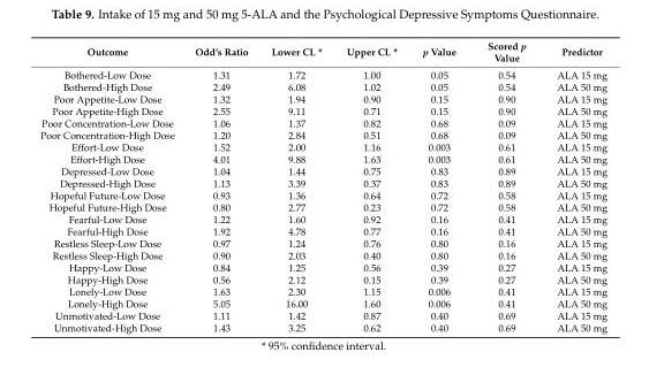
<table><thead><tr><td>Outcome</td><td>Odd’s Ratio</td><td>Lower CL *</td><td>Upper CL *</td><td>p Value</td><td>Scored p Value</td><td>Predictor</td></tr></thead><tbody><tr><td>Bothered-Low Dose</td><td>1.31</td><td>1.72</td><td>1.00</td><td>0.05</td><td>0.54</td><td>ALA 15 mg</td></tr><tr><td>Bothered-High Dose</td><td>2.49</td><td>6.08</td><td>1.02</td><td>0.05</td><td>0.54</td><td>ALA 50 mg</td></tr><tr><td>Poor Appetite-Low Dose</td><td>1.32</td><td>1.94</td><td>0.90</td><td>0.15</td><td>0.90</td><td>ALA 15 mg</td></tr><tr><td>Poor Appetite-High Dose</td><td>2.55</td><td>9.11</td><td>0.71</td><td>0.15</td><td>0.90</td><td>ALA 50 mg</td></tr><tr><td>Poor Concentration-Low Dose</td><td>1.06</td><td>1.37</td><td>0.82</td><td>0.68</td><td>0.09</td><td>ALA 15 mg</td></tr><tr><td>Poor Concentration-High Dose</td><td>1.20</td><td>2.84</td><td>0.51</td><td>0.68</td><td>0.09</td><td>ALA 50 mg</td></tr><tr><td>Effort-Low Dose</td><td>1.52</td><td>2.00</td><td>1.16</td><td>0.003</td><td>0.61</td><td>ALA 15 mg</td></tr><tr><td>Effort-High Dose</td><td>4.01</td><td>9.88</td><td>1.63</td><td>0.003</td><td>0.61</td><td>ALA 50 mg</td></tr><tr><td>Depressed-Low Dose</td><td>1.04</td><td>1.44</td><td>0.75</td><td>0.83</td><td>0.89</td><td>ALA 15 mg</td></tr><tr><td>Depressed-High Dose</td><td>1.13</td><td>3.39</td><td>0.37</td><td>0.83</td><td>0.89</td><td>ALA 50 mg</td></tr><tr><td>Hopeful Future-Low Dose</td><td>0.93</td><td>1.36</td><td>0.64</td><td>0.72</td><td>0.58</td><td>ALA 15 mg</td></tr><tr><td>Hopeful Future-High Dose</td><td>0.80</td><td>2.77</td><td>0.23</td><td>0.72</td><td>0.58</td><td>ALA 50 mg</td></tr><tr><td>Fearful-Low Dose</td><td>1.22</td><td>1.60</td><td>0.92</td><td>0.16</td><td>0.41</td><td>ALA 15 mg</td></tr><tr><td>Fearful-High Dose</td><td>1.92</td><td>4.78</td><td>0.77</td><td>0.16</td><td>0.41</td><td>ALA 50 mg</td></tr><tr><td>Restless Sleep-Low Dose</td><td>0.97</td><td>1.24</td><td>0.76</td><td>0.80</td><td>0.16</td><td>ALA 15 mg</td></tr><tr><td>Restless Sleep-High Dose</td><td>0.90</td><td>2.03</td><td>0.40</td><td>0.80</td><td>0.16</td><td>ALA 50 mg</td></tr><tr><td>Happy-Low Dose</td><td>0.84</td><td>1.25</td><td>0.56</td><td>0.39</td><td>0.27</td><td>ALA 15 mg</td></tr><tr><td>Happy-High Dose</td><td>0.56</td><td>2.12</td><td>0.15</td><td>0.39</td><td>0.27</td><td>ALA 50 mg</td></tr><tr><td>Lonely-Low Dose</td><td>1.63</td><td>2.30</td><td>1.15</td><td>0.006</td><td>0.41</td><td>ALA 15 mg</td></tr><tr><td>Lonely-High Dose</td><td>5.05</td><td>16.00</td><td>1.60</td><td>0.006</td><td>0.41</td><td>ALA 50 mg</td></tr><tr><td>Unmotivated-Low Dose</td><td>1.11</td><td>1.42</td><td>0.87</td><td>0.40</td><td>0.69</td><td>ALA 15 mg</td></tr><tr><td>Unmotivated-High Dose</td><td>1.43</td><td>3.25</td><td>0.62</td><td>0.40</td><td>0.69</td><td>ALA 50 mg</td></tr></tbody></table>